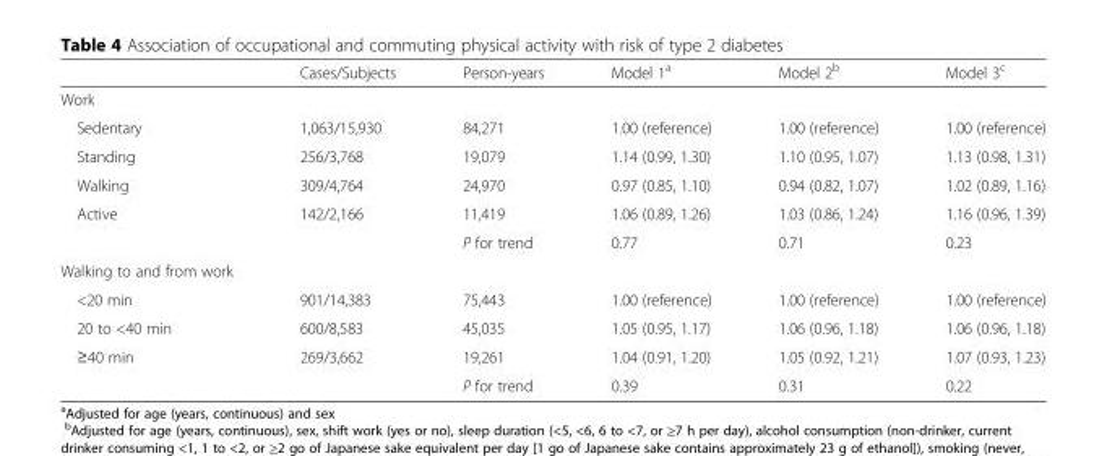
<table><thead><tr><td></td><td>Cases/Subjects</td><td>Person-years</td><td>Model 1<sup>a</sup></td><td>Model 2<sup>b</sup></td><td>Model 3<sup>c</sup></td></tr></thead><tbody><tr><td colspan="6">Work</td></tr><tr><td>Sedentary</td><td>1,063/15,930</td><td>84,271</td><td>1.00 (reference)</td><td>1.00 (reference)</td><td>1.00 (reference)</td></tr><tr><td>Standing</td><td>256/3,768</td><td>19,079</td><td>1.14 (0.99, 1.30)</td><td>1.10 (0.95, 1.07)</td><td>1.13 (0.98, 1.31)</td></tr><tr><td>Walking</td><td>309/4,764</td><td>24,970</td><td>0.97 (0.85, 1.10)</td><td>0.94 (0.82, 1.07)</td><td>1.02 (0.89, 1.16)</td></tr><tr><td rowspan="2">Active</td><td>142/2,166</td><td>11,419</td><td>1.06 (0.89, 1.26)</td><td>1.03 (0.86, 1.24)</td><td>1.16 (0.96, 1.39)</td></tr><tr><td></td><td>P for trend</td><td>0.77</td><td>0.71</td><td>0.23</td></tr><tr><td colspan="6">Walking to and from work</td></tr><tr><td>&lt;20 min</td><td>901/14,383</td><td>75,443</td><td>1.00 (reference)</td><td>1.00 (reference)</td><td>1.00 (reference)</td></tr><tr><td>20 to &lt;40 min</td><td>600/8,583</td><td>45,035</td><td>1.05 (0.95, 1.17)</td><td>1.06 (0.96, 1.18)</td><td>1.06 (0.96, 1.18)</td></tr><tr><td rowspan="2">≥40 min</td><td>269/3,662</td><td>19,261</td><td>1.04 (0.91, 1.20)</td><td>1.05 (0.92, 1.21)</td><td>1.07 (0.93, 1.23)</td></tr><tr><td></td><td>P for trend</td><td>0.39</td><td>0.31</td><td>0.22</td></tr></tbody></table>